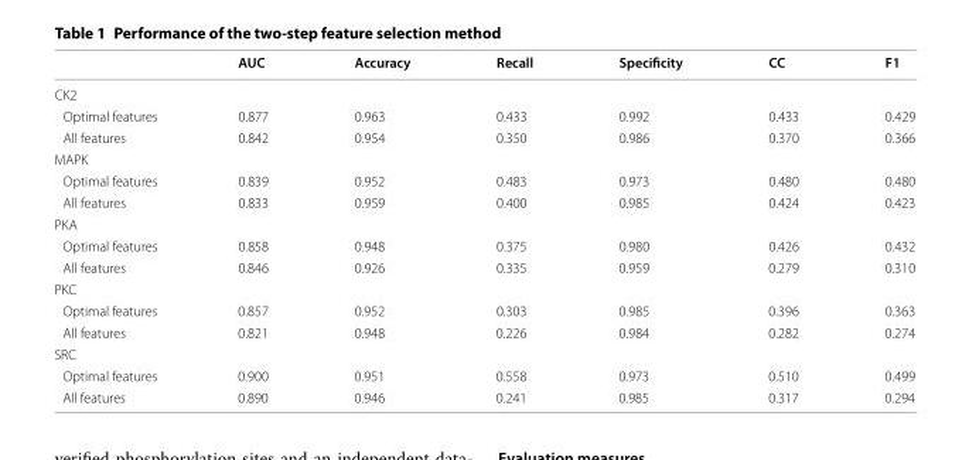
<table><thead><tr><td></td><td>AUC</td><td>Accuracy</td><td>Recall</td><td>Specificity</td><td>CC</td><td>F1</td></tr></thead><tbody><tr><td colspan="7">CK2</td></tr><tr><td>Optimal features</td><td>0.877</td><td>0.963</td><td>0.433</td><td>0.992</td><td>0.433</td><td>0.429</td></tr><tr><td>All features</td><td>0.842</td><td>0.954</td><td>0.350</td><td>0.986</td><td>0.370</td><td>0.366</td></tr><tr><td colspan="7">MAPK</td></tr><tr><td>Optimal features</td><td>0.839</td><td>0.952</td><td>0.483</td><td>0.973</td><td>0.480</td><td>0.480</td></tr><tr><td>All features</td><td>0.833</td><td>0.959</td><td>0.400</td><td>0.985</td><td>0.424</td><td>0.423</td></tr><tr><td colspan="7">PKA</td></tr><tr><td>Optimal features</td><td>0.858</td><td>0.948</td><td>0.375</td><td>0.980</td><td>0.426</td><td>0.432</td></tr><tr><td>All features</td><td>0.846</td><td>0.926</td><td>0.335</td><td>0.959</td><td>0.279</td><td>0.310</td></tr><tr><td colspan="7">PKC</td></tr><tr><td>Optimal features</td><td>0.857</td><td>0.952</td><td>0.303</td><td>0.985</td><td>0.396</td><td>0.363</td></tr><tr><td>All features</td><td>0.821</td><td>0.948</td><td>0.226</td><td>0.984</td><td>0.282</td><td>0.274</td></tr><tr><td colspan="7">SRC</td></tr><tr><td>Optimal features</td><td>0.900</td><td>0.951</td><td>0.558</td><td>0.973</td><td>0.510</td><td>0.499</td></tr><tr><td>All features</td><td>0.890</td><td>0.946</td><td>0.241</td><td>0.985</td><td>0.317</td><td>0.294</td></tr></tbody></table>